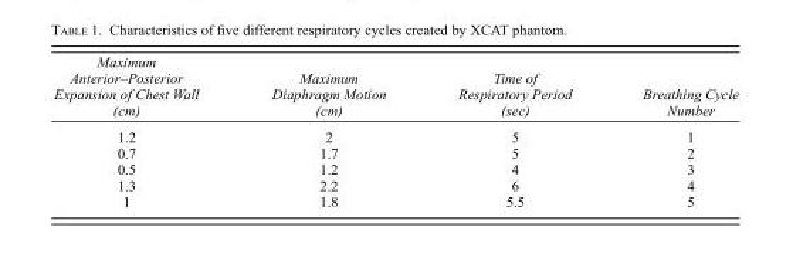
<table><thead><tr><td>Maximum Anterior–Posterior Expansion of Chest Wall (cm)</td><td>Maximum Diaphragm Motion (cm)</td><td>Time of Respiratory Period (sec)</td><td>Breathing Cycle Number</td></tr></thead><tbody><tr><td>1.2</td><td>2</td><td>5</td><td>1</td></tr><tr><td>0.7</td><td>1.7</td><td>5</td><td>2</td></tr><tr><td>0.5</td><td>1.2</td><td>4</td><td>3</td></tr><tr><td>1.3</td><td>2.2</td><td>6</td><td>4</td></tr><tr><td>1</td><td>1.8</td><td>5.5</td><td>5</td></tr></tbody></table>